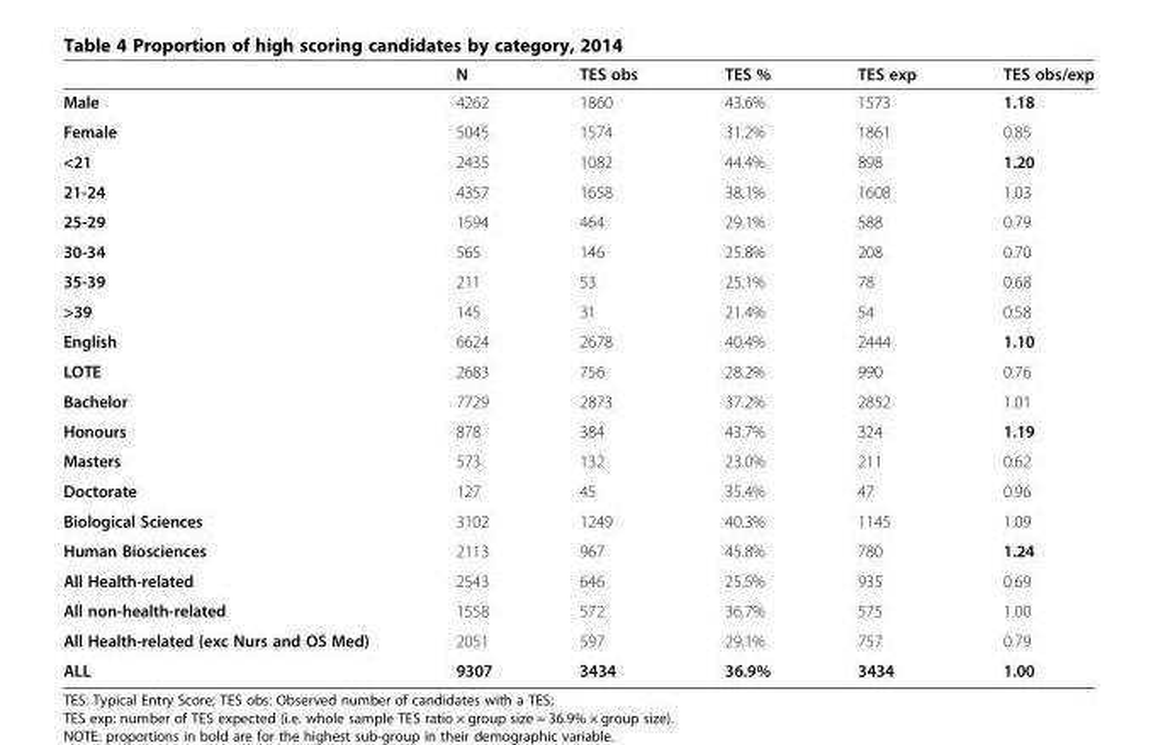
<table><thead><tr><td></td><td>N</td><td>TES obs</td><td>TES %</td><td>TES exp</td><td>TES obs/exp</td></tr></thead><tbody><tr><td>Male</td><td>4262</td><td>1860</td><td>43.6%</td><td>1573</td><td>1.18</td></tr><tr><td>Female</td><td>5045</td><td>1574</td><td>31.2%</td><td>1861</td><td>0.85</td></tr><tr><td>&lt;21</td><td>2435</td><td>1082</td><td>44.4%</td><td>898</td><td>1.20</td></tr><tr><td>21-24</td><td>4357</td><td>1658</td><td>38.1%</td><td>1608</td><td>1.03</td></tr><tr><td>25-29</td><td>1594</td><td>464</td><td>29.1%</td><td>588</td><td>0.79</td></tr><tr><td>30-34</td><td>565</td><td>146</td><td>25.8%</td><td>208</td><td>0.70</td></tr><tr><td>35-39</td><td>211</td><td>53</td><td>25.1%</td><td>78</td><td>0.68</td></tr><tr><td>&gt;39</td><td>145</td><td>31</td><td>21.4%</td><td>54</td><td>0.58</td></tr><tr><td>English</td><td>6624</td><td>2678</td><td>40.4%</td><td>2444</td><td>1.10</td></tr><tr><td>LOTE</td><td>2683</td><td>756</td><td>28.2%</td><td>990</td><td>0.76</td></tr><tr><td>Bachelor</td><td>7729</td><td>2873</td><td>37.2%</td><td>2852</td><td>1.01</td></tr><tr><td>Honours</td><td>878</td><td>384</td><td>43.7%</td><td>324</td><td>1.19</td></tr><tr><td>Masters</td><td>573</td><td>132</td><td>23.0%</td><td>211</td><td>0.62</td></tr><tr><td>Doctorate</td><td>127</td><td>45</td><td>35.4%</td><td>47</td><td>0.96</td></tr><tr><td>Biological Sciences</td><td>3102</td><td>1249</td><td>40.3%</td><td>1145</td><td>1.09</td></tr><tr><td>Human Biosciences</td><td>2113</td><td>967</td><td>45.8%</td><td>780</td><td>1.24</td></tr><tr><td>All Health-related</td><td>2543</td><td>646</td><td>25.5%</td><td>935</td><td>0.69</td></tr><tr><td>All non-health-related</td><td>1558</td><td>572</td><td>36.7%</td><td>575</td><td>1.00</td></tr><tr><td>All Health-related (exc Nurs and OS Med)</td><td>2051</td><td>597</td><td>29.1%</td><td>757</td><td>0.79</td></tr><tr><td>ALL</td><td>9307</td><td>3434</td><td>36.9%</td><td>3434</td><td>1.00</td></tr></tbody></table>